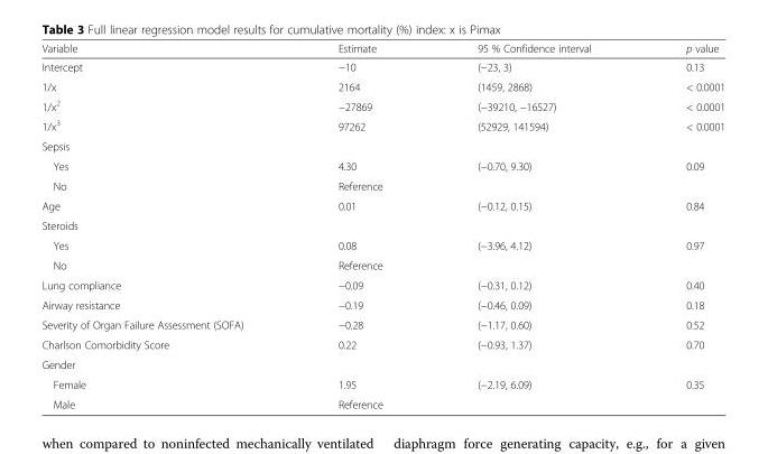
<table><thead><tr><td>Variable</td><td>Estimate</td><td>95 % Confidence interval</td><td>p value</td></tr></thead><tbody><tr><td>Intercept</td><td>−10</td><td>(−23, 3)</td><td>0.13</td></tr><tr><td>1/x</td><td>2164</td><td>(1459, 2868)</td><td>&lt; 0.0001</td></tr><tr><td>1/x<sup>2</sup></td><td>−27869</td><td>(−39210, −16527)</td><td>&lt; 0.0001</td></tr><tr><td>1/x<sup>3</sup></td><td>97262</td><td>(52929, 141594)</td><td>&lt; 0.0001</td></tr><tr><td colspan="4">Sepsis</td></tr><tr><td>Yes</td><td>4.30</td><td rowspan="2">(−0.70, 9.30)</td><td rowspan="2">0.09</td></tr><tr><td>No</td><td>Reference</td></tr><tr><td>Age</td><td>0.01</td><td>(−0.12, 0.15)</td><td>0.84</td></tr><tr><td colspan="4">Steroids</td></tr><tr><td>Yes</td><td>0.08</td><td rowspan="2">(−3.96, 4.12)</td><td rowspan="2">0.97</td></tr><tr><td>No</td><td>Reference</td></tr><tr><td>Lung compliance</td><td>−0.09</td><td>(−0.31, 0.12)</td><td>0.40</td></tr><tr><td>Airway resistance</td><td>−0.19</td><td>(−0.46, 0.09)</td><td>0.18</td></tr><tr><td>Severity of Organ Failure Assessment (SOFA)</td><td>−0.28</td><td>(−1.17, 0.60)</td><td>0.52</td></tr><tr><td>Charlson Comorbidity Score</td><td>0.22</td><td>(−0.93, 1.37)</td><td>0.70</td></tr><tr><td colspan="4">Gender</td></tr><tr><td>Female</td><td>1.95</td><td rowspan="2">(−2.19, 6.09)</td><td rowspan="2">0.35</td></tr><tr><td>Male</td><td>Reference</td></tr></tbody></table>